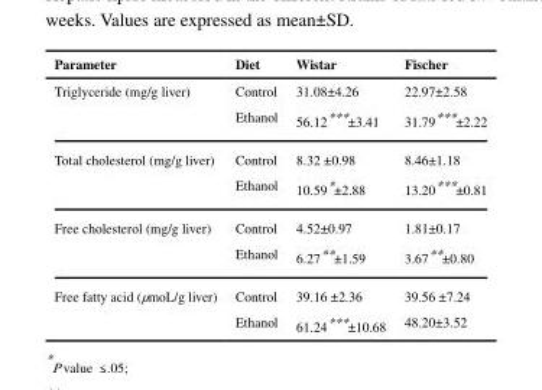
<table><thead><tr><td>Parameter</td><td>Diet</td><td>Wistar</td><td>Fischer</td></tr></thead><tbody><tr><td rowspan="2">Triglyceride (mg/g liver)</td><td>Control</td><td>31.08±4.26</td><td>22.97±2.58</td></tr><tr><td>Ethanol</td><td>56.12***±3.41</td><td>31.79***±2.22</td></tr><tr><td rowspan="2">Total cholesterol (mg/g liver)</td><td>Control</td><td>8.32 ±0.98</td><td>8.46±1.18</td></tr><tr><td>Ethanol</td><td>10.59*±2.88</td><td>13.20***±0.81</td></tr><tr><td rowspan="2">Free cholesterol (mg/g liver)</td><td>Control</td><td>4.52±0.97</td><td>1.81±0.17</td></tr><tr><td>Ethanol</td><td>6.27**±1.59</td><td>3.67**±0.80</td></tr><tr><td rowspan="2">Free fatty acid (μmoL/g liver)</td><td>Control</td><td>39.16 ±2.36</td><td>39.56 ±7.24</td></tr><tr><td>Ethanol</td><td>61.24***±10.68</td><td>48.20±3.52</td></tr></tbody></table>